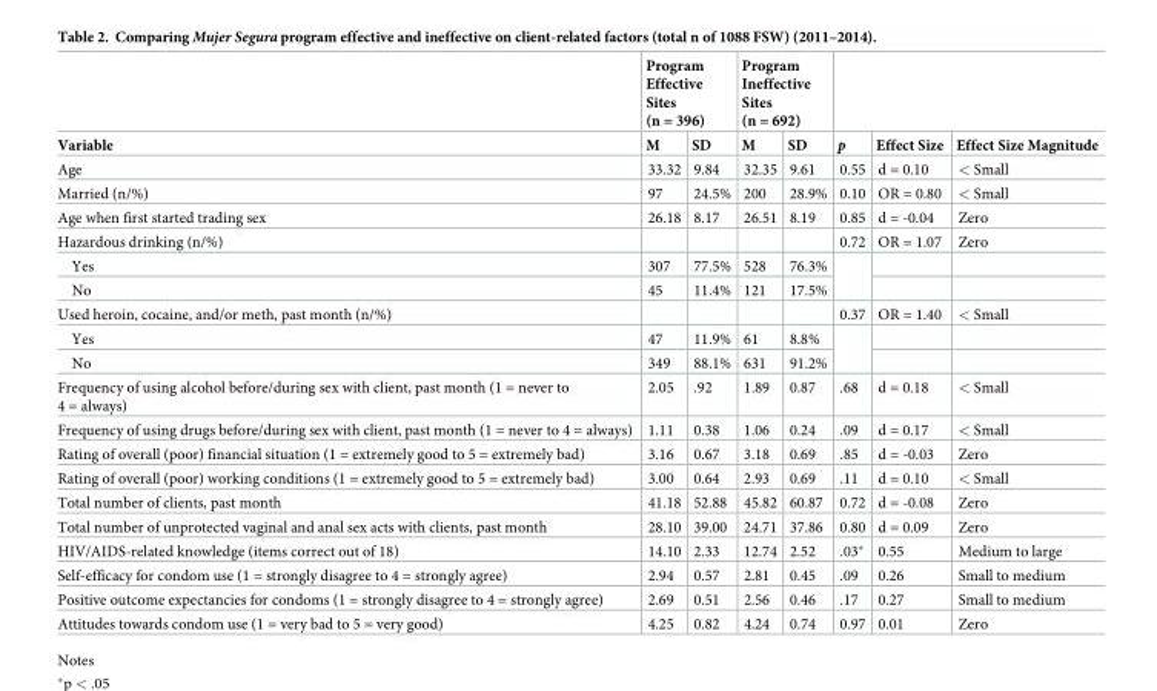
<table><thead><tr><td rowspan="2">Variable</td><td colspan="2">Program Effective Sites (n = 396)</td><td colspan="2">Program Ineffective Sites (n = 692)</td><td rowspan="2">p</td><td rowspan="2">Effect Size</td><td rowspan="2">Effect Size Magnitude</td></tr><tr><td>M</td><td>SD</td><td>M</td><td>SD</td></tr></thead><tbody><tr><td>Age</td><td>33.32</td><td>9.84</td><td>32.35</td><td>9.61</td><td>0.55</td><td>d = 0.10</td><td>&lt; Small</td></tr><tr><td>Married (n/%)</td><td>97</td><td>24.5%</td><td>200</td><td>28.9%</td><td>0.10</td><td>OR = 0.80</td><td>&lt; Small</td></tr><tr><td>Age when first started trading sex</td><td>26.18</td><td>8.17</td><td>26.51</td><td>8.19</td><td>0.85</td><td>d = -0.04</td><td>Zero</td></tr><tr><td>Hazardous drinking (n/%)</td><td></td><td></td><td></td><td></td><td>0.72</td><td>OR = 1.07</td><td>Zero</td></tr><tr><td>Yes</td><td>307</td><td>77.5%</td><td>528</td><td>76.3%</td><td rowspan="2"></td><td></td><td></td></tr><tr><td>No</td><td>45</td><td>11.4%</td><td>121</td><td>17.5%</td><td></td><td></td></tr><tr><td>Used heroin, cocaine, and/or meth, past month (n/%)</td><td></td><td></td><td></td><td></td><td>0.37</td><td>OR = 1.40</td><td>&lt; Small</td></tr><tr><td>Yes</td><td>47</td><td>11.9%</td><td>61</td><td>8.8%</td><td rowspan="2"></td><td></td><td></td></tr><tr><td>No</td><td>349</td><td>88.1%</td><td>631</td><td>91.2%</td><td></td><td></td></tr><tr><td>Frequency of using alcohol before/during sex with client, past month (1 = never to 4 = always)</td><td>2.05</td><td>.92</td><td>1.89</td><td>0.87</td><td>.68</td><td>d = 0.18</td><td>&lt; Small</td></tr><tr><td>Frequency of using drugs before/during sex with client, past month (1 = never to 4 = always)</td><td>1.11</td><td>0.38</td><td>1.06</td><td>0.24</td><td>.09</td><td>d = 0.17</td><td>&lt; Small</td></tr><tr><td>Rating of overall (poor) financial situation (1 = extremely good to 5 = extremely bad)</td><td>3.16</td><td>0.67</td><td>3.18</td><td>0.69</td><td>.85</td><td>d = -0.03</td><td>Zero</td></tr><tr><td>Rating of overall (poor) working conditions (1 = extremely good to 5 = extremely bad)</td><td>3.00</td><td>0.64</td><td>2.93</td><td>0.69</td><td>.11</td><td>d = 0.10</td><td>&lt; Small</td></tr><tr><td>Total number of clients, past month</td><td>41.18</td><td>52.88</td><td>45.82</td><td>60.87</td><td>0.72</td><td>d = -0.08</td><td>Zero</td></tr><tr><td>Total number of unprotected vaginal and anal sex acts with clients, past month</td><td>28.10</td><td>39.00</td><td>24.71</td><td>37.86</td><td>0.80</td><td>d = 0.09</td><td>Zero</td></tr><tr><td>HIV/AIDS-related knowledge (items correct out of 18)</td><td>14.10</td><td>2.33</td><td>12.74</td><td>2.52</td><td>.03*</td><td>0.55</td><td>Medium to large</td></tr><tr><td>Self-efficacy for condom use (1 = strongly disagree to 4 = strongly agree)</td><td>2.94</td><td>0.57</td><td>2.81</td><td>0.45</td><td>.09</td><td>0.26</td><td>Small to medium</td></tr><tr><td>Positive outcome expectancies for condoms (1 = strongly disagree to 4 = strongly agree)</td><td>2.69</td><td>0.51</td><td>2.56</td><td>0.46</td><td>.17</td><td>0.27</td><td>Small to medium</td></tr><tr><td>Attitudes towards condom use (1 = very bad to 5 = very good)</td><td>4.25</td><td>0.82</td><td>4.24</td><td>0.74</td><td>0.97</td><td>0.01</td><td>Zero</td></tr></tbody></table>